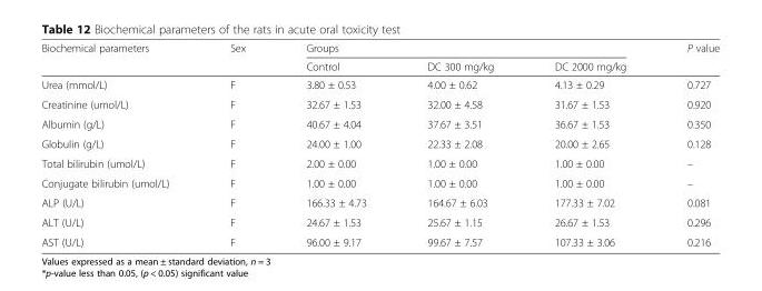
<table><thead><tr><td rowspan="2">Biochemical parameters</td><td rowspan="2">Sex</td><td colspan="3">Groups</td><td rowspan="2">P value</td></tr><tr><td>Control</td><td>DC 300 mg/kg</td><td>DC 2000 mg/kg</td></tr></thead><tbody><tr><td>Urea (mmol/L)</td><td>F</td><td>3.80 ± 0.53</td><td>4.00 ± 0.62</td><td>4.13 ± 0.29</td><td>0.727</td></tr><tr><td>Creatinine (umol/L)</td><td>F</td><td>32.67 ± 1.53</td><td>32.00 ± 4.58</td><td>31.67 ± 1.53</td><td>0.920</td></tr><tr><td>Albumin (g/L)</td><td>F</td><td>40.67 ± 4.04</td><td>37.67 ± 3.51</td><td>36.67 ± 1.53</td><td>0.350</td></tr><tr><td>Globulin (g/L)</td><td>F</td><td>24.00 ± 1.00</td><td>22.33 ± 2.08</td><td>20.00 ± 2.65</td><td>0.128</td></tr><tr><td>Total bilirubin (umol/L)</td><td>F</td><td>2.00 ± 0.00</td><td>1.00 ± 0.00</td><td>1.00 ± 0.00</td><td>–</td></tr><tr><td>Conjugate bilirubin (umol/L)</td><td>F</td><td>1.00 ± 0.00</td><td>1.00 ± 0.00</td><td>1.00 ± 0.00</td><td>–</td></tr><tr><td>ALP (U/L)</td><td>F</td><td>166.33 ± 4.73</td><td>164.67 ± 6.03</td><td>177.33 ± 7.02</td><td>0.081</td></tr><tr><td>ALT (U/L)</td><td>F</td><td>24.67 ± 1.53</td><td>25.67 ± 1.15</td><td>26.67 ± 1.53</td><td>0.296</td></tr><tr><td>AST (U/L)</td><td>F</td><td>96.00 ± 9.17</td><td>99.67 ± 7.57</td><td>107.33 ± 3.06</td><td>0.216</td></tr></tbody></table>